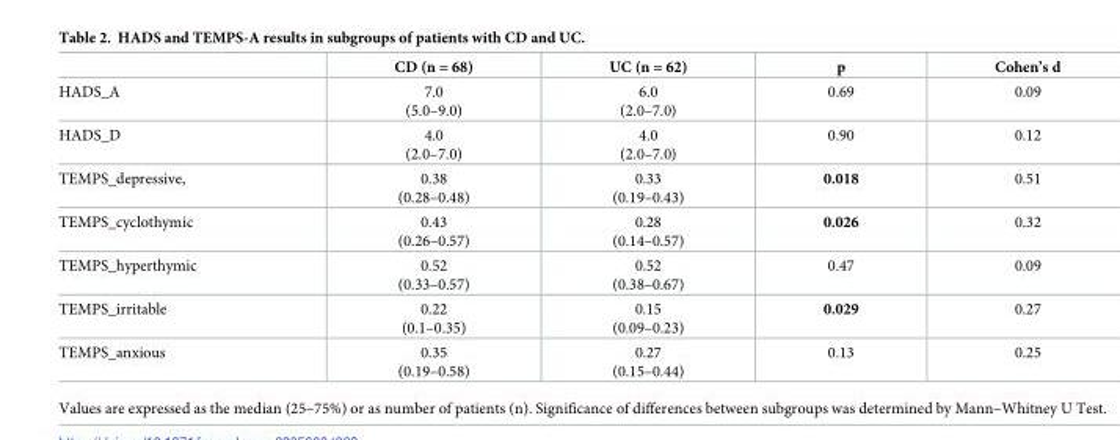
<table><thead><tr><td></td><td>CD (n = 68)</td><td>UC (n = 62)</td><td>p</td><td>Cohen’s d</td></tr></thead><tbody><tr><td>HADS_A</td><td>7.0 (5.0–9.0)</td><td>6.0 (2.0–7.0)</td><td>0.69</td><td>0.09</td></tr><tr><td>HADS_D</td><td>4.0 (2.0–7.0)</td><td>4.0 (2.0–7.0)</td><td>0.90</td><td>0.12</td></tr><tr><td>TEMPS_depressive,</td><td>0.38 (0.28–0.48)</td><td>0.33 (0.19–0.43)</td><td>0.018</td><td>0.51</td></tr><tr><td>TEMPS_cyclothymic</td><td>0.43 (0.26–0.57)</td><td>0.28 (0.14–0.57)</td><td>0.026</td><td>0.32</td></tr><tr><td>TEMPS_hyperthymic</td><td>0.52 (0.33–0.57)</td><td>0.52 (0.38–0.67)</td><td>0.47</td><td>0.09</td></tr><tr><td>TEMPS_irritable</td><td>0.22 (0.1–0.35)</td><td>0.15 (0.09–0.23)</td><td>0.029</td><td>0.27</td></tr><tr><td>TEMPS_anxious</td><td>0.35 (0.19–0.58)</td><td>0.27 (0.15–0.44)</td><td>0.13</td><td>0.25</td></tr></tbody></table>